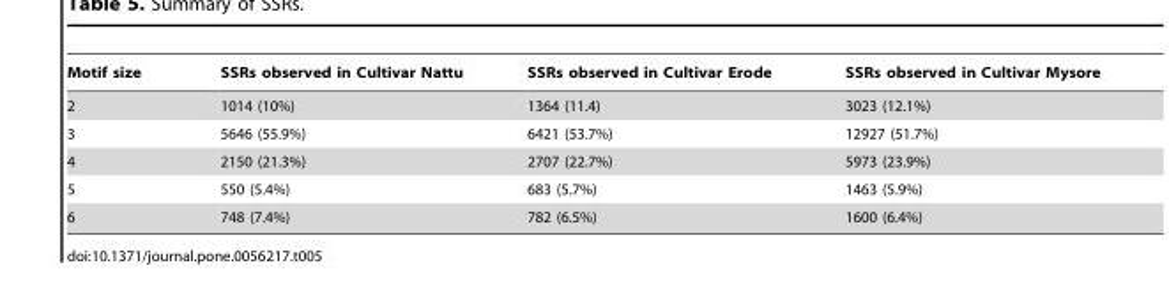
<table><thead><tr><td>Motif size</td><td>SSRs observed in Cultivar Nattu</td><td>SSRs observed in Cultivar Erode</td><td>SSRs observed in Cultivar Mysore</td></tr></thead><tbody><tr><td>2</td><td>1014 (10%)</td><td>1364 (11.4)</td><td>3023 (12.1%)</td></tr><tr><td>3</td><td>5646 (55.9%)</td><td>6421 (53.7%)</td><td>12927 (51.7%)</td></tr><tr><td>4</td><td>2150 (21.3%)</td><td>2707 (22.7%)</td><td>5973 (23.9%)</td></tr><tr><td>5</td><td>550 (5.4%)</td><td>683 (5.7%)</td><td>1463 (5.9%)</td></tr><tr><td>6</td><td>748 (7.4%)</td><td>782 (6.5%)</td><td>1600 (6.4%)</td></tr></tbody></table>